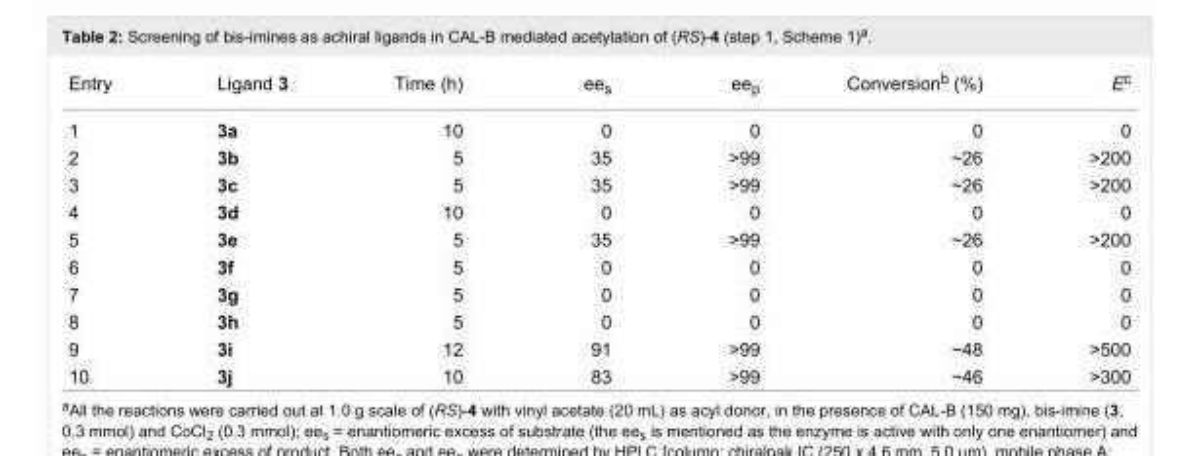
<table><tbody><tr><td>Entry</td><td>Ligand 3</td><td>Time (h)</td><td>ee<sub>s</sub></td><td>ee<sub>p</sub></td><td>Conversion<sup>b</sup> (%)</td><td>E<sup>c</sup></td></tr><tr><td>1</td><td>3a</td><td>10</td><td>0</td><td>0</td><td>0</td><td>0</td></tr><tr><td>2</td><td>3b</td><td>5</td><td>35</td><td>&gt;99</td><td>~26</td><td>&gt;200</td></tr><tr><td>3</td><td>3c</td><td>5</td><td>35</td><td>&gt;99</td><td>~26</td><td>&gt;200</td></tr><tr><td>4</td><td>3d</td><td>10</td><td>0</td><td>0</td><td>0</td><td>0</td></tr><tr><td>5</td><td>3e</td><td>5</td><td>35</td><td>&gt;99</td><td>~26</td><td>&gt;200</td></tr><tr><td>6</td><td>3f</td><td>5</td><td>0</td><td>0</td><td>0</td><td>0</td></tr><tr><td>7</td><td>3g</td><td>5</td><td>0</td><td>0</td><td>0</td><td>0</td></tr><tr><td>8</td><td>3h</td><td>5</td><td>0</td><td>0</td><td>0</td><td>0</td></tr><tr><td>9</td><td>3i</td><td>12</td><td>91</td><td>&gt;99</td><td>~48</td><td>&gt;500</td></tr><tr><td>10</td><td>3j</td><td>10</td><td>83</td><td>&gt;99</td><td>~46</td><td>&gt;300</td></tr></tbody></table>